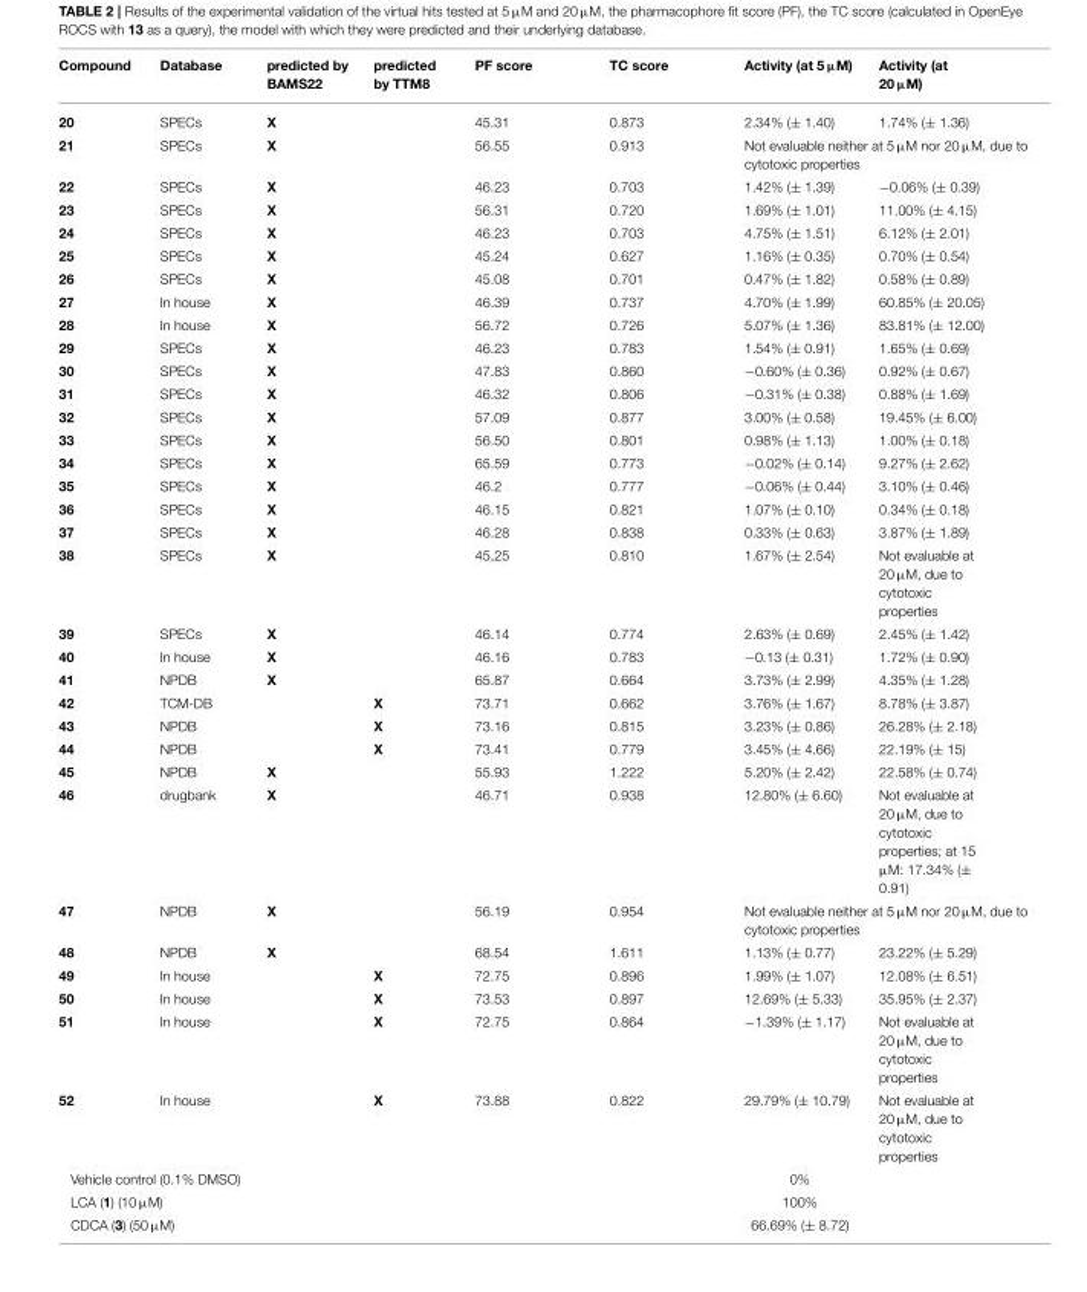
<table><thead><tr><td>Compound</td><td>Database</td><td>predicted by BAMS22</td><td>predicted by TTM8</td><td>PF score</td><td>TC score</td><td>Activity (at 5 µM)</td><td>Activity (at 20 µM)</td></tr></thead><tbody><tr><td>20</td><td>SPECs</td><td>X</td><td></td><td>45.31</td><td>0.873</td><td>2.34% (± 1.40)</td><td>1.74% (± 1.36)</td></tr><tr><td>21</td><td>SPECs</td><td>X</td><td></td><td>56.55</td><td>0.913</td><td colspan="2">Not evaluable neither at 5 µM nor 20 µM, due to cytotoxic properties</td></tr><tr><td>22</td><td>SPECs</td><td>X</td><td></td><td>46.23</td><td>0.703</td><td>1.42% (± 1.39)</td><td>−0.06% (± 0.39)</td></tr><tr><td>23</td><td>SPECs</td><td>X</td><td></td><td>56.31</td><td>0.720</td><td>1.69% (± 1.01)</td><td>11.00% (± 4.15)</td></tr><tr><td>24</td><td>SPECs</td><td>X</td><td></td><td>46.23</td><td>0.703</td><td>4.75% (± 1.51)</td><td>6.12% (± 2.01)</td></tr><tr><td>25</td><td>SPECs</td><td>X</td><td></td><td>45.24</td><td>0.627</td><td>1.16% (± 0.35)</td><td>0.70% (± 0.54)</td></tr><tr><td>26</td><td>SPECs</td><td>X</td><td></td><td>45.08</td><td>0.701</td><td>0.47% (± 1.82)</td><td>0.58% (± 0.89)</td></tr><tr><td>27</td><td>In house</td><td>X</td><td></td><td>46.39</td><td>0.737</td><td>4.70% (± 1.99)</td><td>60.85% (± 20.05)</td></tr><tr><td>28</td><td>In house</td><td>X</td><td></td><td>56.72</td><td>0.726</td><td>5.07% (± 1.36)</td><td>83.81% (± 12.00)</td></tr><tr><td>29</td><td>SPECs</td><td>X</td><td></td><td>46.23</td><td>0.783</td><td>1.54% (± 0.91)</td><td>1.65% (± 0.69)</td></tr><tr><td>30</td><td>SPECs</td><td>X</td><td></td><td>47.83</td><td>0.860</td><td>−0.60% (± 0.36)</td><td>0.92% (± 0.67)</td></tr><tr><td>31</td><td>SPECs</td><td>X</td><td></td><td>46.32</td><td>0.806</td><td>−0.31% (± 0.38)</td><td>0.88% (± 1.69)</td></tr><tr><td>32</td><td>SPECs</td><td>X</td><td></td><td>57.09</td><td>0.877</td><td>3.00% (± 0.58)</td><td>19.45% (± 6.00)</td></tr><tr><td>33</td><td>SPECs</td><td>X</td><td></td><td>56.50</td><td>0.801</td><td>0.98% (± 1.13)</td><td>1.00% (± 0.18)</td></tr><tr><td>34</td><td>SPECs</td><td>X</td><td></td><td>65.59</td><td>0.773</td><td>−0.02% (± 0.14)</td><td>9.27% (± 2.62)</td></tr><tr><td>35</td><td>SPECs</td><td>X</td><td></td><td>46.2</td><td>0.777</td><td>−0.06% (± 0.44)</td><td>3.10% (± 0.46)</td></tr><tr><td>36</td><td>SPECs</td><td>X</td><td></td><td>46.15</td><td>0.821</td><td>1.07% (± 0.10)</td><td>0.34% (± 0.18)</td></tr><tr><td>37</td><td>SPECs</td><td>X</td><td></td><td>46.28</td><td>0.838</td><td>0.33% (± 0.63)</td><td>3.87% (± 1.89)</td></tr><tr><td>38</td><td>SPECs</td><td>X</td><td></td><td>45,25</td><td>0.810</td><td>1.67% (± 2.54)</td><td>Not evaluable at 20 µM, due to cytotoxic properties</td></tr><tr><td>39</td><td>SPECs</td><td>X</td><td></td><td>46.14</td><td>0.774</td><td>2.63% (± 0.69)</td><td>2.45% (± 1.42)</td></tr><tr><td>40</td><td>In house</td><td>X</td><td></td><td>46.16</td><td>0.783</td><td>−0.13 (± 0.31)</td><td>1.72% (± 0.90)</td></tr><tr><td>41</td><td>NPDB</td><td>X</td><td></td><td>65.87</td><td>0.664</td><td>3.73% (± 2.99)</td><td>4.35% (± 1.28)</td></tr><tr><td>42</td><td>TCM-DB</td><td></td><td>X</td><td>73.71</td><td>0.662</td><td>3.76% (± 1.67)</td><td>8.78% (± 3.87)</td></tr><tr><td>43</td><td>NPDB</td><td></td><td>X</td><td>73.16</td><td>0.815</td><td>3.23% (± 0.86)</td><td>26.28% (± 2.18)</td></tr><tr><td>44</td><td>NPDB</td><td></td><td>X</td><td>73.41</td><td>0.779</td><td>3.45% (± 4.66)</td><td>22.19% (± 15)</td></tr><tr><td>45</td><td>NPDB</td><td>X</td><td></td><td>55.93</td><td>1.222</td><td>5.20% (± 2.42)</td><td>22.58% (± 0.74)</td></tr><tr><td>46</td><td>drugbank</td><td>X</td><td></td><td>46.71</td><td>0.938</td><td>12.80% (± 6.60)</td><td>Not evaluable at 20 µM, due to cytotoxic properties; at 15 µM: 17.34% (± 0.91)</td></tr><tr><td>47</td><td>NPDB</td><td>X</td><td></td><td>56.19</td><td>0.954</td><td colspan="2">Not evaluable neither at 5 µM nor 20 µM, due to cytotoxic properties</td></tr><tr><td>48</td><td>NPDB</td><td>X</td><td></td><td>68.54</td><td>1.611</td><td>1.13% (± 0.77)</td><td>23.22% (± 5.29)</td></tr><tr><td>49</td><td>In house</td><td></td><td>X</td><td>72.75</td><td>0.896</td><td>1.99% (± 1.07)</td><td>12.08% (± 6.51)</td></tr><tr><td>50</td><td>In house</td><td></td><td>X</td><td>73.53</td><td>0.897</td><td>12.69% (± 5.33)</td><td>35.95% (± 2.37)</td></tr><tr><td>51</td><td>In house</td><td></td><td>X</td><td>72.75</td><td>0.864</td><td>−1.39% (± 1.17)</td><td>Not evaluable at 20 µM, due to cytotoxic properties</td></tr><tr><td>52</td><td>In house</td><td></td><td>X</td><td>73.88</td><td>0.822</td><td>29.79% (± 10.79)</td><td>Not evaluable at 20 µM, due to cytotoxic properties</td></tr><tr><td colspan="2">Vehicle control (0.1% DMSO)</td><td></td><td></td><td></td><td></td><td colspan="2">0%</td></tr><tr><td colspan="2">LCA (1) (10 µM)</td><td></td><td></td><td></td><td></td><td colspan="2">100%</td></tr><tr><td colspan="2">CDCA (3) (50 µM)</td><td></td><td></td><td></td><td></td><td colspan="2">66.69% (± 8.72)</td></tr></tbody></table>